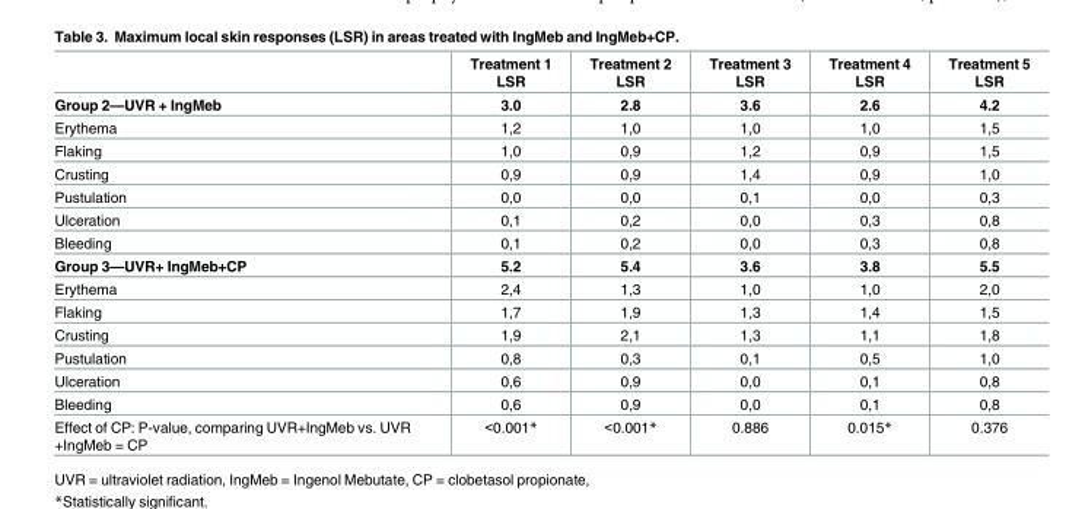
<table><thead><tr><td></td><td>Treatment 1 LSR</td><td>Treatment 2 LSR</td><td>Treatment 3 LSR</td><td>Treatment 4 LSR</td><td>Treatment 5 LSR</td></tr></thead><tbody><tr><td>Group 2—UVR + IngMeb</td><td>3.0</td><td>2.8</td><td>3.6</td><td>2.6</td><td>4.2</td></tr><tr><td>Erythema</td><td>1,2</td><td>1,0</td><td>1,0</td><td>1,0</td><td>1,5</td></tr><tr><td>Flaking</td><td>1,0</td><td>0,9</td><td>1,2</td><td>0,9</td><td>1,5</td></tr><tr><td>Crusting</td><td>0,9</td><td>0,9</td><td>1,4</td><td>0,9</td><td>1,0</td></tr><tr><td>Pustulation</td><td>0,0</td><td>0,0</td><td>0,1</td><td>0,0</td><td>0,3</td></tr><tr><td>Ulceration</td><td>0,1</td><td>0,2</td><td>0,0</td><td>0,3</td><td>0,8</td></tr><tr><td>Bleeding</td><td>0,1</td><td>0,2</td><td>0,0</td><td>0,3</td><td>0,8</td></tr><tr><td>Group 3—UVR+ IngMeb+CP</td><td>5.2</td><td>5.4</td><td>3.6</td><td>3.8</td><td>5.5</td></tr><tr><td>Erythema</td><td>2,4</td><td>1,3</td><td>1,0</td><td>1,0</td><td>2,0</td></tr><tr><td>Flaking</td><td>1,7</td><td>1,9</td><td>1,3</td><td>1,4</td><td>1,5</td></tr><tr><td>Crusting</td><td>1,9</td><td>2,1</td><td>1,3</td><td>1,1</td><td>1,8</td></tr><tr><td>Pustulation</td><td>0,8</td><td>0,3</td><td>0,1</td><td>0,5</td><td>1,0</td></tr><tr><td>Ulceration</td><td>0,6</td><td>0,9</td><td>0,0</td><td>0,1</td><td>0,8</td></tr><tr><td>Bleeding</td><td>0,6</td><td>0,9</td><td>0,0</td><td>0,1</td><td>0,8</td></tr><tr><td>Effect of CP: P-value, comparing UVR+IngMeb vs. UVR +IngMeb = CP</td><td>&lt;0.001*</td><td>&lt;0.001*</td><td>0.886</td><td>0.015*</td><td>0.376</td></tr></tbody></table>